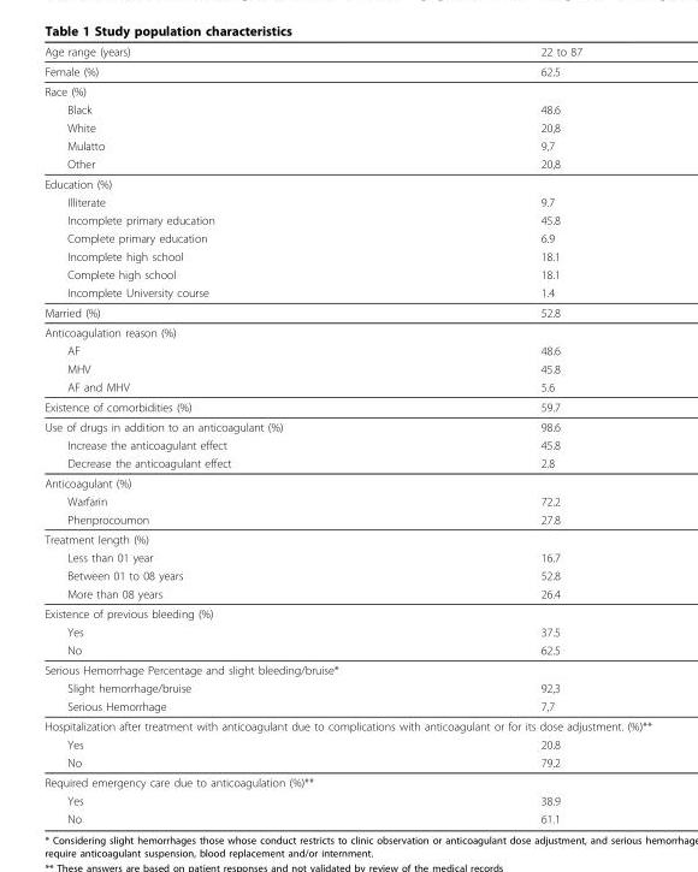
<table><thead><tr><td>Age range (years)</td><td>22 to 87</td></tr></thead><tbody><tr><td>Female (%)</td><td>62.5</td></tr><tr><td colspan="2">Race (%)</td></tr><tr><td>Black</td><td>48.6</td></tr><tr><td>White</td><td>20,8</td></tr><tr><td>Mulatto</td><td>9,7</td></tr><tr><td>Other</td><td>20,8</td></tr><tr><td colspan="2">Education (%)</td></tr><tr><td>Illiterate</td><td>9.7</td></tr><tr><td>Incomplete primary education</td><td>45.8</td></tr><tr><td>Complete primary education</td><td>6.9</td></tr><tr><td>Incomplete high school</td><td>18.1</td></tr><tr><td>Complete high school</td><td>18.1</td></tr><tr><td>Incomplete University course</td><td>1.4</td></tr><tr><td>Married (%)</td><td>52.8</td></tr><tr><td colspan="2">Anticoagulation reason (%)</td></tr><tr><td>AF</td><td>48.6</td></tr><tr><td>MHV</td><td>45.8</td></tr><tr><td>AF and MHV</td><td>5.6</td></tr><tr><td>Existence of comorbidities (%)</td><td>59.7</td></tr><tr><td>Use of drugs in addition to an anticoagulant (%)</td><td>98.6</td></tr><tr><td>Increase the anticoagulant effect</td><td>45.8</td></tr><tr><td>Decrease the anticoagulant effect</td><td>2.8</td></tr><tr><td colspan="2">Anticoagulant (%)</td></tr><tr><td>Warfarin</td><td>72.2</td></tr><tr><td>Phenprocoumon</td><td>27.8</td></tr><tr><td colspan="2">Treatment length (%)</td></tr><tr><td>Less than 01 year</td><td>16.7</td></tr><tr><td>Between 01 to 08 years</td><td>52.8</td></tr><tr><td>More than 08 years</td><td>26.4</td></tr><tr><td colspan="2">Existence of previous bleeding (%)</td></tr><tr><td>Yes</td><td>37.5</td></tr><tr><td>No</td><td>62.5</td></tr><tr><td colspan="2">Serious Hemorrhage Percentage and slight bleeding/bruise*</td></tr><tr><td>Slight hemorrhage/bruise</td><td>92,3</td></tr><tr><td>Serious Hemorrhage</td><td>7,7</td></tr><tr><td colspan="2">Hospitalization after treatment with anticoagulant due to complications with anticoagulant or for its dose adjustment. (%)**</td></tr><tr><td>Yes</td><td>20.8</td></tr><tr><td>No</td><td>79.2</td></tr><tr><td colspan="2">Required emergency care due to anticoagulation (%)**</td></tr><tr><td>Yes</td><td>38.9</td></tr><tr><td>No</td><td>61.1</td></tr></tbody></table>